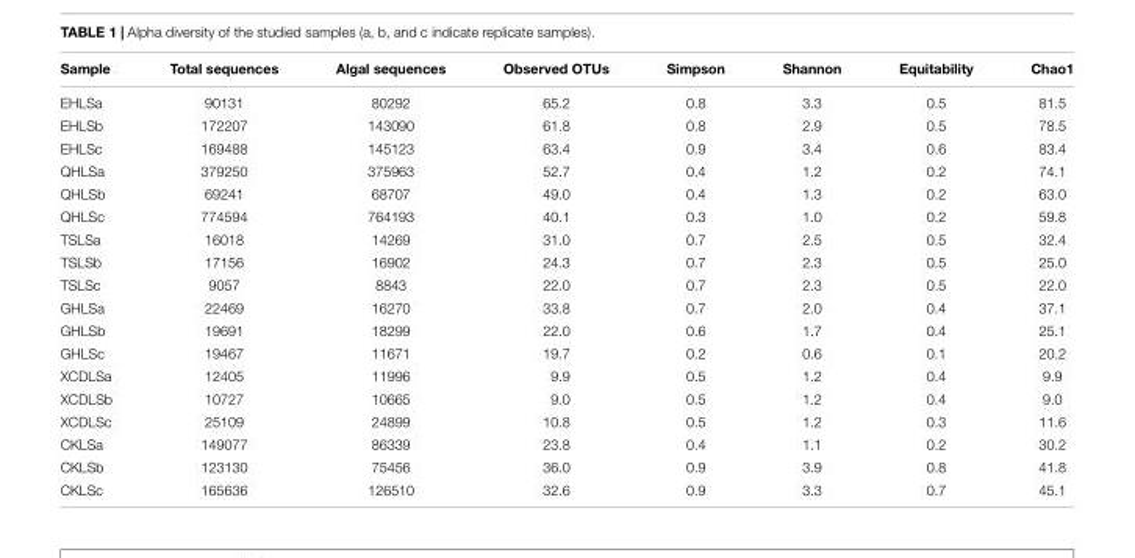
<table><thead><tr><td>Sample</td><td>Total sequences</td><td>Algal sequences</td><td>Observed OTUs</td><td>Simpson</td><td>Shannon</td><td>Equitability</td><td>Chao1</td></tr></thead><tbody><tr><td>EHLSa</td><td>90131</td><td>80292</td><td>65.2</td><td>0.8</td><td>3.3</td><td>0.5</td><td>81.5</td></tr><tr><td>EHLSb</td><td>172207</td><td>143090</td><td>61.8</td><td>0.8</td><td>2.9</td><td>0.5</td><td>78.5</td></tr><tr><td>EHLSc</td><td>169488</td><td>145123</td><td>63.4</td><td>0.9</td><td>3.4</td><td>0.6</td><td>83.4</td></tr><tr><td>QHLSa</td><td>379250</td><td>375963</td><td>52.7</td><td>0.4</td><td>1.2</td><td>0.2</td><td>74.1</td></tr><tr><td>QHLSb</td><td>69241</td><td>68707</td><td>49.0</td><td>0.4</td><td>1.3</td><td>0.2</td><td>63.0</td></tr><tr><td>QHLSc</td><td>774594</td><td>764193</td><td>40.1</td><td>0.3</td><td>1.0</td><td>0.2</td><td>59.8</td></tr><tr><td>TSLSa</td><td>16018</td><td>14269</td><td>31.0</td><td>0.7</td><td>2.5</td><td>0.5</td><td>32.4</td></tr><tr><td>TSLSb</td><td>17156</td><td>16902</td><td>24.3</td><td>0.7</td><td>2.3</td><td>0.5</td><td>25.0</td></tr><tr><td>TSLSc</td><td>9057</td><td>8843</td><td>22.0</td><td>0.7</td><td>2.3</td><td>0.5</td><td>22.0</td></tr><tr><td>GHLSa</td><td>22469</td><td>16270</td><td>33.8</td><td>0.7</td><td>2.0</td><td>0.4</td><td>37.1</td></tr><tr><td>GHLSb</td><td>19691</td><td>18299</td><td>22.0</td><td>0.6</td><td>1.7</td><td>0.4</td><td>25.1</td></tr><tr><td>GHLSc</td><td>19467</td><td>11671</td><td>19.7</td><td>0.2</td><td>0.6</td><td>0.1</td><td>20.2</td></tr><tr><td>XCDLSa</td><td>12405</td><td>11996</td><td>9.9</td><td>0.5</td><td>1.2</td><td>0.4</td><td>9.9</td></tr><tr><td>XCDLSb</td><td>10727</td><td>10665</td><td>9.0</td><td>0.5</td><td>1.2</td><td>0.4</td><td>9.0</td></tr><tr><td>XCDLSc</td><td>25109</td><td>24899</td><td>10.8</td><td>0.5</td><td>1.2</td><td>0.3</td><td>11.6</td></tr><tr><td>CKLSa</td><td>149077</td><td>86339</td><td>23.8</td><td>0.4</td><td>1.1</td><td>0.2</td><td>30.2</td></tr><tr><td>CKLSb</td><td>123130</td><td>75456</td><td>36.0</td><td>0.9</td><td>3.9</td><td>0.8</td><td>41.8</td></tr><tr><td>CKLSc</td><td>165636</td><td>126510</td><td>32.6</td><td>0.9</td><td>3.3</td><td>0.7</td><td>45.1</td></tr></tbody></table>